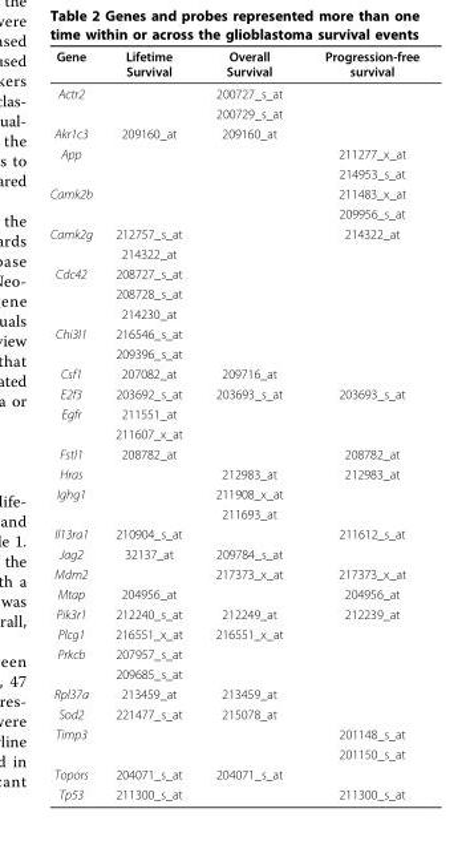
<table><thead><tr><td>Gene</td><td>Lifetime Survival</td><td>Overall Survival</td><td>Progression-free survival</td></tr></thead><tbody><tr><td rowspan="2">Actr2</td><td></td><td>200727_s_at</td><td></td></tr><tr><td></td><td>200729_s_at</td><td></td></tr><tr><td>Akr1c3</td><td>209160_at</td><td>209160_at</td><td></td></tr><tr><td rowspan="2">App</td><td></td><td></td><td>211277_x_at</td></tr><tr><td></td><td></td><td>214953_s_at</td></tr><tr><td rowspan="2">Camk2b</td><td></td><td></td><td>211483_x_at</td></tr><tr><td></td><td></td><td>209956_s_at</td></tr><tr><td rowspan="2">Camk2g</td><td>212757_s_at</td><td></td><td>214322_at</td></tr><tr><td>214322_at</td><td></td><td></td></tr><tr><td rowspan="3">Cdc42</td><td>208727_s_at</td><td></td><td></td></tr><tr><td>208728_s_at</td><td></td><td></td></tr><tr><td>214230_at</td><td></td><td></td></tr><tr><td rowspan="2">Chi3l1</td><td>216546_s_at</td><td></td><td></td></tr><tr><td>209396_s_at</td><td></td><td></td></tr><tr><td>Csf1</td><td>207082_at</td><td>209716_at</td><td></td></tr><tr><td>E2f3</td><td>203692_s_at</td><td>203693_s_at</td><td>203693_s_at</td></tr><tr><td rowspan="2">Egfr</td><td>211551_at</td><td></td><td></td></tr><tr><td>211607_x_at</td><td></td><td></td></tr><tr><td>Fstl1</td><td>208782_at</td><td></td><td>208782_at</td></tr><tr><td>Hras</td><td></td><td>212983_at</td><td>212983_at</td></tr><tr><td rowspan="2">Ighg1</td><td></td><td>211908_x_at</td><td></td></tr><tr><td></td><td>211693_at</td><td></td></tr><tr><td>Il13ra1</td><td>210904_s_at</td><td></td><td>211612_s_at</td></tr><tr><td>Jag2</td><td>32137_at</td><td>209784_s_at</td><td></td></tr><tr><td>Mdm2</td><td></td><td>217373_x_at</td><td>217373_x_at</td></tr><tr><td>Mtap</td><td>204956_at</td><td></td><td>204956_at</td></tr><tr><td>Pik3r1</td><td>212240_s_at</td><td>212249_at</td><td>212239_at</td></tr><tr><td>Plcg1</td><td>216551_x_at</td><td>216551_x_at</td><td></td></tr><tr><td rowspan="2">Prkcb</td><td>207957_s_at</td><td></td><td></td></tr><tr><td>209685_s_at</td><td></td><td></td></tr><tr><td>Rpl37a</td><td>213459_at</td><td>213459_at</td><td></td></tr><tr><td>Sod2</td><td>221477_s_at</td><td>215078_at</td><td></td></tr><tr><td rowspan="2">Timp3</td><td></td><td></td><td>201148_s_at</td></tr><tr><td></td><td></td><td>201150_s_at</td></tr><tr><td>Topors</td><td>204071_s_at</td><td>204071_s_at</td><td></td></tr><tr><td>Tp53</td><td>211300_s_at</td><td></td><td>211300_s_at</td></tr></tbody></table>